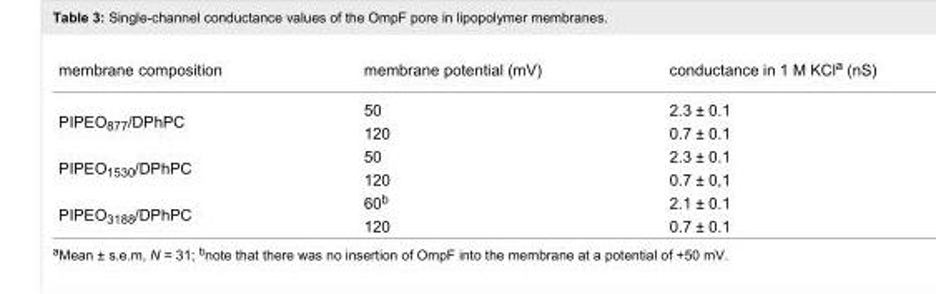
<table><tbody><tr><td>membrane composition</td><td>membrane potential (mV)</td><td>conductance in 1 M KCl<sup>a</sup> (nS)</td></tr><tr><td rowspan="2">PIPEO<sub>877</sub>/DPhPC</td><td>50</td><td>2.3 ± 0.1</td></tr><tr><td>120</td><td>0.7 ± 0.1</td></tr><tr><td rowspan="2">PIPEO<sub>1530</sub>/DPhPC</td><td>50</td><td>2.3 ± 0.1</td></tr><tr><td>120</td><td>0.7 ± 0,1</td></tr><tr><td rowspan="2">PIPEO<sub>3188</sub>/DPhPC</td><td>60<sup>b</sup></td><td>2.1 ± 0.1</td></tr><tr><td>120</td><td>0.7 ± 0.1</td></tr></tbody></table>